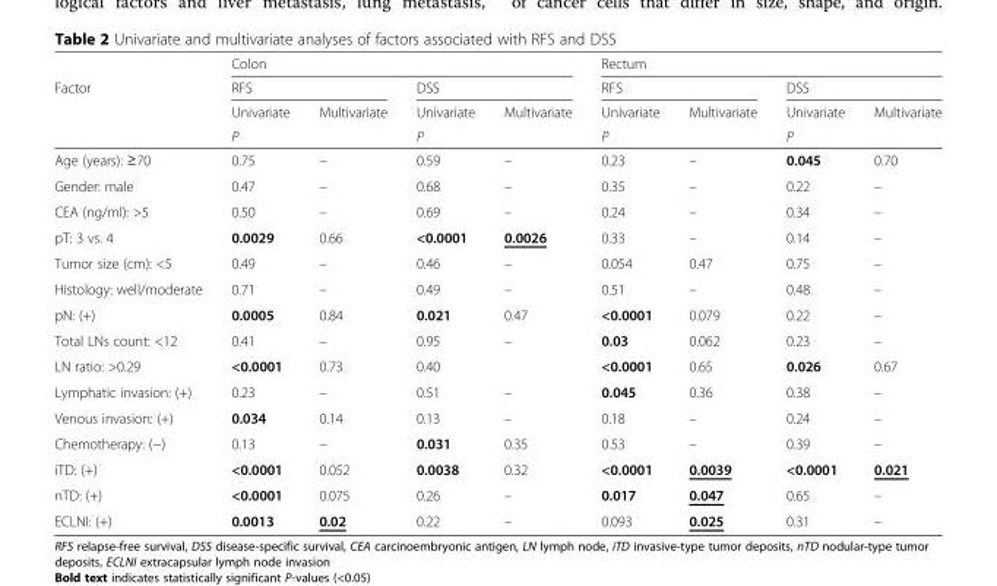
<table><thead><tr><td rowspan="4">Factor</td><td colspan="4">Colon</td><td colspan="4">Rectum</td></tr><tr><td colspan="2">RFS</td><td colspan="2">DSS</td><td colspan="2">RFS</td><td colspan="2">DSS</td></tr><tr><td>Univariate</td><td>Multivariate</td><td>Univariate</td><td>Multivariate</td><td>Univariate</td><td>Multivariate</td><td>Univariate</td><td>Multivariate</td></tr><tr><td colspan="2">P</td><td colspan="2">P</td><td colspan="2">P</td><td colspan="2">P</td></tr></thead><tbody><tr><td>Age (years): ≥70</td><td>0.75</td><td>–</td><td>0.59</td><td>–</td><td>0.23</td><td>–</td><td>0.045</td><td>0.70</td></tr><tr><td>Gender: male</td><td>0.47</td><td>–</td><td>0.68</td><td>–</td><td>0.35</td><td>–</td><td>0.22</td><td>–</td></tr><tr><td>CEA (ng/ml): &gt;5</td><td>0.50</td><td>–</td><td>0.69</td><td>–</td><td>0.24</td><td>–</td><td>0.34</td><td>–</td></tr><tr><td>pT: 3 vs. 4</td><td>0.0029</td><td>0.66</td><td>&lt;0.0001</td><td>0.0026</td><td>0.33</td><td>–</td><td>0.14</td><td>–</td></tr><tr><td>Tumor size (cm): &lt;5</td><td>0.49</td><td>–</td><td>0.46</td><td>–</td><td>0.054</td><td>0.47</td><td>0.75</td><td>–</td></tr><tr><td>Histology: well/moderate</td><td>0.71</td><td>–</td><td>0.49</td><td>–</td><td>0.51</td><td>–</td><td>0.48</td><td>–</td></tr><tr><td>pN: (+)</td><td>0.0005</td><td>0.84</td><td>0.021</td><td>0.47</td><td>&lt;0.0001</td><td>0.079</td><td>0.22</td><td>–</td></tr><tr><td>Total LNs count: &lt;12</td><td>0.41</td><td>–</td><td>0.95</td><td>–</td><td>0.03</td><td>0.062</td><td>0.23</td><td>–</td></tr><tr><td>LN ratio: &gt;0.29</td><td>&lt;0.0001</td><td>0.73</td><td>0.40</td><td></td><td>&lt;0.0001</td><td>0.65</td><td>0.026</td><td>0.67</td></tr><tr><td>Lymphatic invasion: (+)</td><td>0.23</td><td>–</td><td>0.51</td><td>–</td><td>0.045</td><td>0.36</td><td>0.38</td><td>–</td></tr><tr><td>Venous invasion: (+)</td><td>0.034</td><td>0.14</td><td>0.13</td><td>–</td><td>0.18</td><td>–</td><td>0.24</td><td>–</td></tr><tr><td>Chemotherapy: (−)</td><td>0.13</td><td>–</td><td>0.031</td><td>0.35</td><td>0.53</td><td>–</td><td>0.39</td><td>–</td></tr><tr><td>iTD: (+)</td><td>&lt;0.0001</td><td>0.052</td><td>0.0038</td><td>0.32</td><td>&lt;0.0001</td><td>0.0039</td><td>&lt;0.0001</td><td>0.021</td></tr><tr><td>nTD: (+)</td><td>&lt;0.0001</td><td>0.075</td><td>0.26</td><td>–</td><td>0.017</td><td>0.047</td><td>0.65</td><td>–</td></tr><tr><td>ECLNI: (+)</td><td>0.0013</td><td>0.02</td><td>0.22</td><td>–</td><td>0.093</td><td>0.025</td><td>0.31</td><td>–</td></tr></tbody></table>